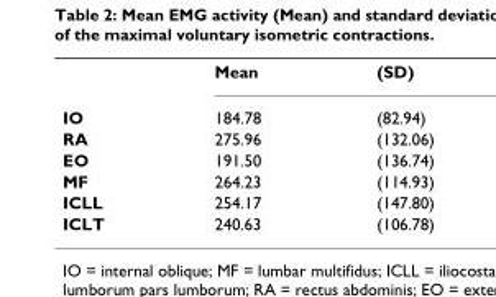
<table><thead><tr><td></td><td>Mean</td><td>(SD)</td></tr></thead><tbody><tr><td>IO</td><td>184.78</td><td>(82.94)</td></tr><tr><td>RA</td><td>275.96</td><td>(132.06)</td></tr><tr><td>EO</td><td>191.50</td><td>(136.74)</td></tr><tr><td>MF</td><td>264.23</td><td>(114.93)</td></tr><tr><td>ICLL</td><td>254.17</td><td>(147.80)</td></tr><tr><td>ICLT</td><td>240.63</td><td>(106.78)</td></tr></tbody></table>